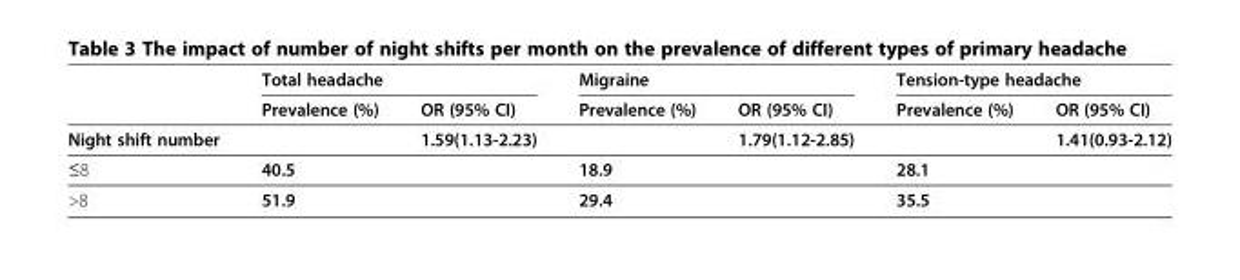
<table><thead><tr><td rowspan="2"></td><td colspan="2">Total headache</td><td colspan="2">Migraine</td><td colspan="2">Tension-type headache</td></tr><tr><td>Prevalence (%)</td><td>OR (95% CI)</td><td>Prevalence (%)</td><td>OR (95% CI)</td><td>Prevalence (%)</td><td>OR (95% CI)</td></tr></thead><tbody><tr><td>Night shift number</td><td></td><td>1.59(1.13-2.23)</td><td></td><td>1.79(1.12-2.85)</td><td></td><td>1.41(0.93-2.12)</td></tr><tr><td>≤8</td><td>40.5</td><td></td><td>18.9</td><td></td><td>28.1</td><td></td></tr><tr><td>&gt;8</td><td>51.9</td><td></td><td>29.4</td><td></td><td>35.5</td><td></td></tr></tbody></table>